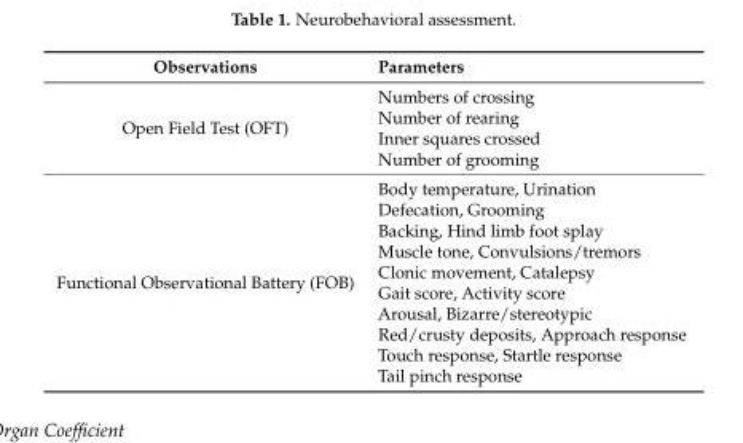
<table><thead><tr><td>Observations</td><td>Parameters</td></tr></thead><tbody><tr><td>Open Field Test (OFT)</td><td>Numbers of crossing Number of rearing Inner squares crossed Number of grooming</td></tr><tr><td>Functional Observational Battery (FOB)</td><td>Body temperature, Urination Defecation, Grooming Backing, Hind limb foot splay Muscle tone, Convulsions/tremors Clonic movement, Catalepsy Gait score, Activity score Arousal, Bizarre/stereotypic Red/crusty deposits, Approach response Touch response, Startle response Tail pinch response</td></tr></tbody></table>